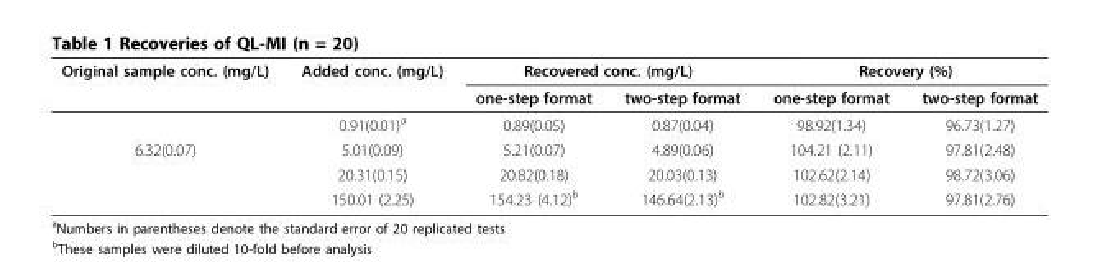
<table><thead><tr><td rowspan="2">Original sample conc. (mg/L)</td><td rowspan="2">Added conc. (mg/L)</td><td colspan="2">Recovered conc. (mg/L)</td><td colspan="2">Recovery (%)</td></tr><tr><td>one-step format</td><td>two-step format</td><td>one-step format</td><td>two-step format</td></tr></thead><tbody><tr><td></td><td>0.91(0.01)<sup>a</sup></td><td>0.89(0.05)</td><td>0.87(0.04)</td><td>98.92(1.34)</td><td>96.73(1.27)</td></tr><tr><td rowspan="3">6.32(0.07)</td><td>5.01(0.09)</td><td>5.21(0.07)</td><td>4.89(0.06)</td><td>104.21 (2.11)</td><td>97.81(2.48)</td></tr><tr><td>20.31(0.15)</td><td>20.82(0.18)</td><td>20.03(0.13)</td><td>102.62(2.14)</td><td>98.72(3.06)</td></tr><tr><td>150.01 (2.25)</td><td>154.23 (4.12)<sup>b</sup></td><td>146.64(2.13)<sup>b</sup></td><td>102.82(3.21)</td><td>97.81(2.76)</td></tr></tbody></table>